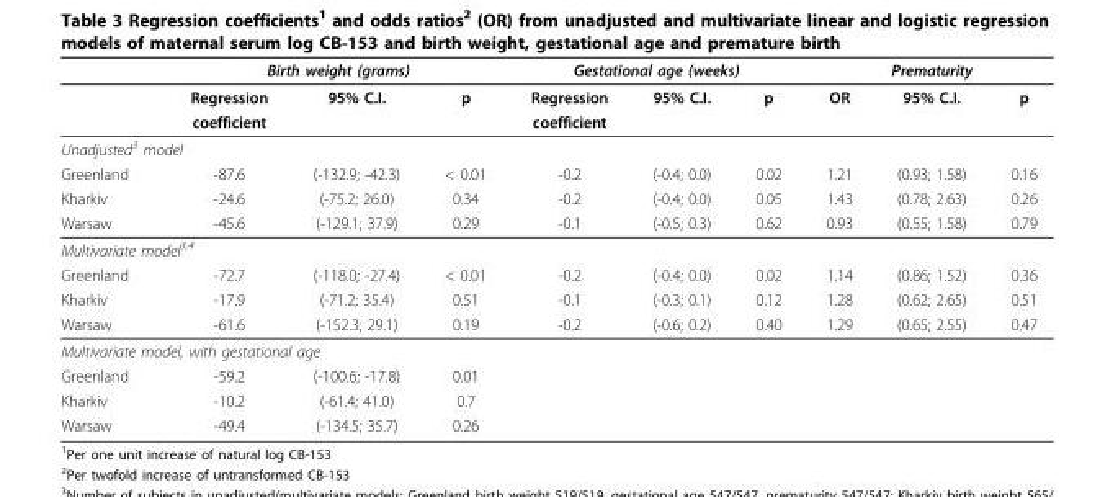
<table><thead><tr><td rowspan="2"></td><td colspan="3">Birth weight (grams)</td><td colspan="3">Gestational age (weeks)</td><td colspan="3">Prematurity</td></tr><tr><td>Regression</td><td>95% C.I.</td><td>p</td><td>Regression</td><td>95% C.I.</td><td>p</td><td>OR</td><td>95% C.I.</td><td>p</td></tr></thead><tbody><tr><td></td><td>coefficient</td><td></td><td></td><td>coefficient</td><td></td><td></td><td></td><td></td><td></td></tr><tr><td colspan="10">Unadjusted<sup>3</sup> model</td></tr><tr><td>Greenland</td><td>-87.6</td><td>(-132.9; -42.3)</td><td>&lt; 0.01</td><td>-0.2</td><td>(-0.4; 0.0)</td><td>0.02</td><td>1.21</td><td>(0.93; 1.58)</td><td>0.16</td></tr><tr><td>Kharkiv</td><td>-24.6</td><td>(-75.2; 26.0)</td><td>0.34</td><td>-0.2</td><td>(-0.4; 0.0)</td><td>0.05</td><td>1.43</td><td>(0.78; 2.63)</td><td>0.26</td></tr><tr><td>Warsaw</td><td>-45.6</td><td>(-129.1; 37.9)</td><td>0.29</td><td>-0.1</td><td>(-0.5; 0.3)</td><td>0.62</td><td>0.93</td><td>(0.55; 1.58)</td><td>0.79</td></tr><tr><td colspan="10">Multivariate model<sup>3,4</sup></td></tr><tr><td>Greenland</td><td>-72.7</td><td>(-118.0; -27.4)</td><td>&lt; 0.01</td><td>-0.2</td><td>(-0.4; 0.0)</td><td>0.02</td><td>1.14</td><td>(0.86; 1.52)</td><td>0.36</td></tr><tr><td>Kharkiv</td><td>-17.9</td><td>(-71.2; 35.4)</td><td>0.51</td><td>-0.1</td><td>(-0.3; 0.1)</td><td>0.12</td><td>1.28</td><td>(0.62; 2.65)</td><td>0.51</td></tr><tr><td>Warsaw</td><td>-61.6</td><td>(-152.3; 29.1)</td><td>0.19</td><td>-0.2</td><td>(-0.6; 0.2)</td><td>0.40</td><td>1.29</td><td>(0.65; 2.55)</td><td>0.47</td></tr><tr><td colspan="10">Multivariate model, with gestational age</td></tr><tr><td>Greenland</td><td>-59.2</td><td>(-100.6; -17.8)</td><td>0.01</td><td></td><td></td><td></td><td></td><td></td><td></td></tr><tr><td>Kharkiv</td><td>-10.2</td><td>(-61.4; 41.0)</td><td>0.7</td><td></td><td></td><td></td><td></td><td></td><td></td></tr><tr><td>Warsaw</td><td>-49.4</td><td>(-134.5; 35.7)</td><td>0.26</td><td></td><td></td><td></td><td></td><td></td><td></td></tr></tbody></table>